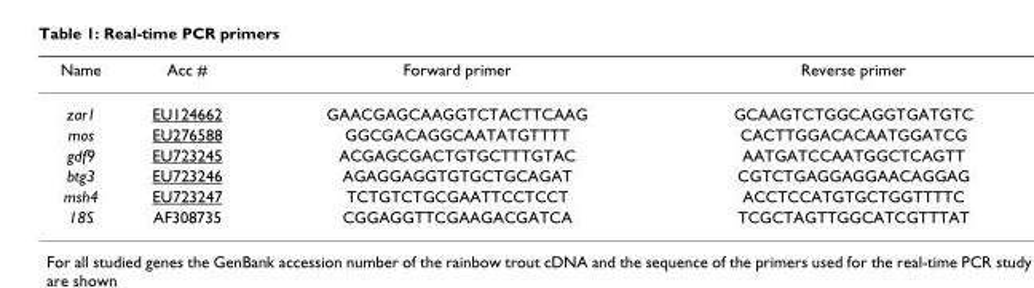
<table><thead><tr><td>Name</td><td>Acc #</td><td>Forward primer</td><td>Reverse primer</td></tr></thead><tbody><tr><td>zar1</td><td>EU124662</td><td>GAACGAGCAAGGTCTACTTCAAG</td><td>GCAAGTCTGGCAGGTGATGTC</td></tr><tr><td>mos</td><td>EU276588</td><td>GGCGACAGGCAATATGTTTT</td><td>CACTTGGACACAATGGATCG</td></tr><tr><td>gdf9</td><td>EU723245</td><td>ACGAGCGACTGTGCTTTGTAC</td><td>AATGATCCAATGGCTCAGTT</td></tr><tr><td>btg3</td><td>EU723246</td><td>AGAGGAGGTGTGCTGCAGAT</td><td>CGTCTGAGGAGGAACAGGAG</td></tr><tr><td>msh4</td><td>EU723247</td><td>TCTGTCTGCGAATTCCTCCT</td><td>ACCTCCATGTGCTGGTTTTC</td></tr><tr><td>18S</td><td>AF308735</td><td>CGGAGGTTCGAAGACGATCA</td><td>TCGCTAGTTGGCATCGTTTAT</td></tr></tbody></table>